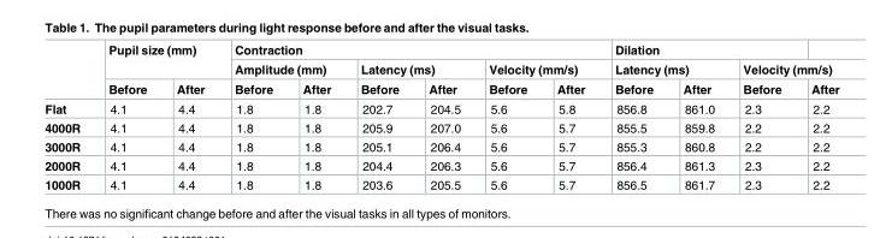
<table><thead><tr><td rowspan="3"></td><td rowspan="2" colspan="2">Pupil size (mm)</td><td colspan="6">Contraction</td><td colspan="3">Dilation</td><td></td></tr><tr><td colspan="2">Amplitude (mm)</td><td colspan="2">Latency (ms)</td><td colspan="2">Velocity (mm/s)</td><td colspan="2">Latency (ms)</td><td colspan="2">Velocity (mm/s)</td></tr><tr><td>Before</td><td>After</td><td>Before</td><td>After</td><td>Before</td><td>After</td><td>Before</td><td>After</td><td>Before</td><td>After</td><td>Before</td><td>After</td></tr></thead><tbody><tr><td>Flat</td><td>4.1</td><td>4.4</td><td>1.8</td><td>1.8</td><td>202.7</td><td>204.5</td><td>5.6</td><td>5.8</td><td>856.8</td><td>861.0</td><td>2.3</td><td>2.2</td></tr><tr><td>4000R</td><td>4.1</td><td>4.4</td><td>1.8</td><td>1.8</td><td>205.9</td><td>207.0</td><td>5.6</td><td>5.7</td><td>855.5</td><td>859.8</td><td>2.2</td><td>2.2</td></tr><tr><td>3000R</td><td>4.1</td><td>4.4</td><td>1.8</td><td>1.8</td><td>205.1</td><td>206.4</td><td>5.6</td><td>5.7</td><td>855.3</td><td>860.8</td><td>2.2</td><td>2.2</td></tr><tr><td>2000R</td><td>4.1</td><td>4.4</td><td>1.8</td><td>1.8</td><td>204.4</td><td>206.3</td><td>5.6</td><td>5.7</td><td>856.4</td><td>861.3</td><td>2.3</td><td>2.2</td></tr><tr><td>1000R</td><td>4.1</td><td>4.4</td><td>1.8</td><td>1.8</td><td>203.6</td><td>205.5</td><td>5.6</td><td>5.7</td><td>856.5</td><td>861.7</td><td>2.3</td><td>2.2</td></tr></tbody></table>